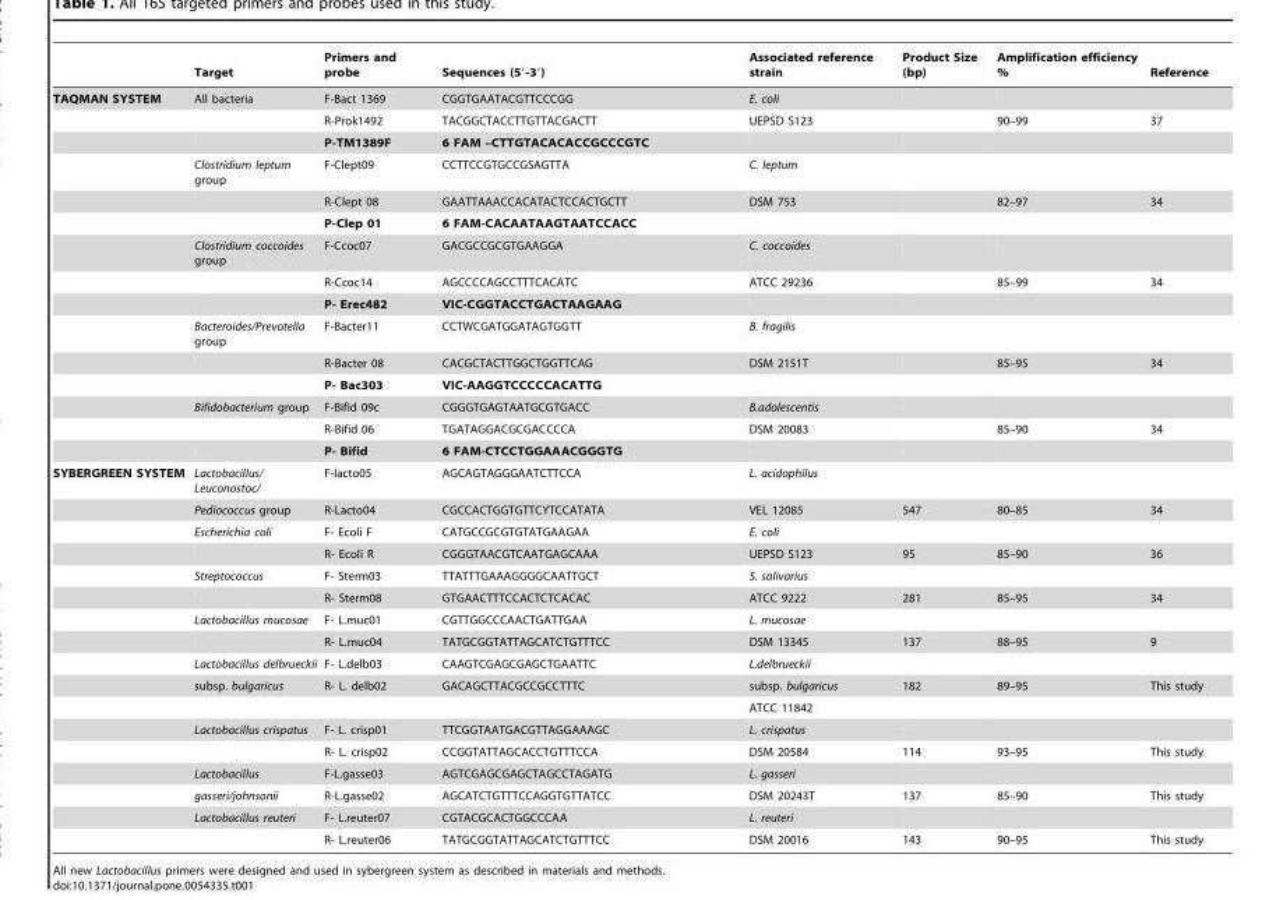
<table><thead><tr><td></td><td>Target</td><td>Primers and probe</td><td>Sequences (5′-3′)</td><td>Associated reference strain</td><td>Product Size (bp)</td><td>Amplification efficiency %</td><td>Reference</td></tr></thead><tbody><tr><td rowspan="15">TAQMAN SYSTEM</td><td>All bacteria</td><td>F-Bact 1369</td><td>CGGTGAATACGTTCCCGG</td><td>E. coli</td><td></td><td></td><td></td></tr><tr><td></td><td>R-Prok1492</td><td>TACGGCTACCTTGTTACGACTT</td><td>UEPSD S123</td><td></td><td>90–99</td><td>37</td></tr><tr><td></td><td>P-TM1389F</td><td>6 FAM –CTTGTACACACCGCCCGTC</td><td></td><td></td><td></td><td></td></tr><tr><td>Clostridium leptum group</td><td>F-Clept09</td><td>CCTTCCGTGCCGSAGTTA</td><td>C. leptum</td><td></td><td></td><td></td></tr><tr><td></td><td>R-Clept 08</td><td>GAATTAAACCACATACTCCACTGCTT</td><td>DSM 753</td><td></td><td>82–97</td><td>34</td></tr><tr><td></td><td>P-Clep 01</td><td>6 FAM-CACAATAAGTAATCCACC</td><td></td><td></td><td></td><td></td></tr><tr><td>Clostridium coccoides group</td><td>F-Ccoc07</td><td>GACGCCGCGTGAAGGA</td><td>C. coccoides</td><td></td><td></td><td></td></tr><tr><td></td><td>R-Ccoc14</td><td>AGCCCCAGCCTTTCACATC</td><td>ATCC 29236</td><td></td><td>85–99</td><td>34</td></tr><tr><td></td><td>P- Erec482</td><td>VIC-CGGTACCTGACTAAGAAG</td><td></td><td></td><td></td><td></td></tr><tr><td>Bacteroides/Prevotella group</td><td>F-Bacter11</td><td>CCTWCGATGGATAGTGGTT</td><td>B. fragilis</td><td></td><td></td><td></td></tr><tr><td></td><td>R-Bacter 08</td><td>CACGCTACTTGGCTGGTTCAG</td><td>DSM 2151T</td><td></td><td>85–95</td><td>34</td></tr><tr><td></td><td>P- Bac303</td><td>VIC-AAGGTCCCCCACATTG</td><td></td><td></td><td></td><td></td></tr><tr><td>Bifidobacterium group</td><td>F-Bifid 09c</td><td>CGGGTGAGTAATGCGTGACC</td><td>B.adolescentis</td><td></td><td></td><td></td></tr><tr><td></td><td>R-Bifid 06</td><td>TGATAGGACGCGACCCCA</td><td>DSM 20083</td><td></td><td>85–90</td><td>34</td></tr><tr><td></td><td>P- Bifid</td><td>6 FAM-CTCCTGGAAACGGGTG</td><td></td><td></td><td></td><td></td></tr><tr><td rowspan="17">SYBERGREEN SYSTEM</td><td>Lactobacillus/ Leuconostoc/</td><td>F-lacto05</td><td>AGCAGTAGGGAATCTTCCA</td><td>L. acidophilus</td><td></td><td></td><td></td></tr><tr><td>Pediococcus group</td><td>R-Lacto04</td><td>CGCCACTGGTGTTCYTCCATATA</td><td>VEL 12085</td><td>547</td><td>80–85</td><td>34</td></tr><tr><td>Escherichia coli</td><td>F- Ecoli F</td><td>CATGCCGCGTGTATGAAGAA</td><td>E. coli</td><td></td><td></td><td></td></tr><tr><td></td><td>R- Ecoli R</td><td>CGGGTAACGTCAATGAGCAAA</td><td>UEPSD S123</td><td>95</td><td>85–90</td><td>36</td></tr><tr><td>Streptococcus</td><td>F- Sterm03</td><td>TTATTTGAAAGGGGCAATTGCT</td><td>S. salivarius</td><td></td><td></td><td></td></tr><tr><td></td><td>R- Sterm08</td><td>GTGAACTTTCCACTCTCACAC</td><td>ATCC 9222</td><td>281</td><td>85–95</td><td>34</td></tr><tr><td>Lactobacillus mucosae</td><td>F- L.muc01</td><td>CGTTGGCCCAACTGATTGAA</td><td>L. mucosae</td><td></td><td></td><td></td></tr><tr><td></td><td>R- L.muc04</td><td>TATGCGGTATTAGCATCTGTTTCC</td><td>DSM 13345</td><td>137</td><td>88–95</td><td>9</td></tr><tr><td>Lactobacillus delbrueckii</td><td>F- L.delb03</td><td>CAAGTCGAGCGAGCTGAATTC</td><td>L.delbrueckii</td><td></td><td></td><td></td></tr><tr><td>subsp. bulgaricus</td><td>R- L. delb02</td><td>GACAGCTTACGCCGCCTTTC</td><td>subsp. bulgaricus</td><td>182</td><td>89–95</td><td>This study</td></tr><tr><td></td><td></td><td></td><td>ATCC 11842</td><td></td><td></td><td></td></tr><tr><td>Lactobacillus crispatus</td><td>F- L. crisp01</td><td>TTCGGTAATGACGTTAGGAAAGC</td><td>L. crispatus</td><td></td><td></td><td></td></tr><tr><td></td><td>R- L. crisp02</td><td>CCGGTATTAGCACCTGTTTCCA</td><td>DSM 20584</td><td>114</td><td>93–95</td><td>This study</td></tr><tr><td>Lactobacillus</td><td>F-L.gasse03</td><td>AGTCGAGCGAGCTAGCCTAGATG</td><td>L. gasseri</td><td></td><td></td><td></td></tr><tr><td>gasseri/johnsonii</td><td>R-L.gasse02</td><td>AGCATCTGTTTCCAGGTGTTATCC</td><td>DSM 20243T</td><td>137</td><td>85–90</td><td>This study</td></tr><tr><td>Lactobacillus reuteri</td><td>F- L.reuter07</td><td>CGTACGCACTGGCCCAA</td><td>L. reuteri</td><td></td><td></td><td></td></tr><tr><td></td><td>R- L.reuter06</td><td>TATGCGGTATTAGCATCTGTTTCC</td><td>DSM 20016</td><td>143</td><td>90–95</td><td>This study</td></tr></tbody></table>